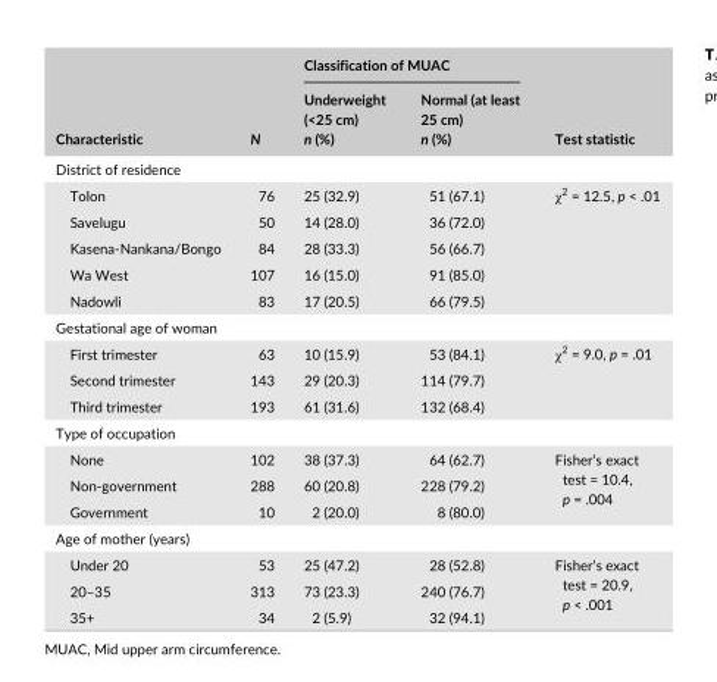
<table><thead><tr><td rowspan="2">Characteristic</td><td rowspan="2">N</td><td colspan="2">Classification of MUAC</td><td rowspan="2">Test statistic</td></tr><tr><td>Underweight (&lt;25 cm) n (%)</td><td>Normal (at least 25 cm) n (%)</td></tr></thead><tbody><tr><td colspan="5">District of residence</td></tr><tr><td>Tolon</td><td>76</td><td>25 (32.9)</td><td>51 (67.1)</td><td rowspan="5">χ<sup>2</sup> = 12.5, p &lt; .01</td></tr><tr><td>Savelugu</td><td>50</td><td>14 (28.0)</td><td>36 (72.0)</td></tr><tr><td>Kasena- Nankana/Bongo</td><td>84</td><td>28 (33.3)</td><td>56 (66.7)</td></tr><tr><td>Wa West</td><td>107</td><td>16 (15.0)</td><td>91 (85.0)</td></tr><tr><td>Nadowli</td><td>83</td><td>17 (20.5)</td><td>66 (79.5)</td></tr><tr><td colspan="5">Gestational age of woman</td></tr><tr><td>First trimester</td><td>63</td><td>10 (15.9)</td><td>53 (84.1)</td><td rowspan="3">χ<sup>2</sup> = 9.0, p = .01</td></tr><tr><td>Second trimester</td><td>143</td><td>29 (20.3)</td><td>114 (79.7)</td></tr><tr><td>Third trimester</td><td>193</td><td>61 (31.6)</td><td>132 (68.4)</td></tr><tr><td colspan="5">Type of occupation</td></tr><tr><td>None</td><td>102</td><td>38 (37.3)</td><td>64 (62.7)</td><td rowspan="3">Fisher’s exact test = 10.4, p = .004</td></tr><tr><td>Non- government</td><td>288</td><td>60 (20.8)</td><td>228 (79.2)</td></tr><tr><td>Government</td><td>10</td><td>2 (20.0)</td><td>8 (80.0)</td></tr><tr><td colspan="5">Age of mother (years)</td></tr><tr><td>Under 20</td><td>53</td><td>25 (47.2)</td><td>28 (52.8)</td><td rowspan="3">Fisher’s exact test = 20.9, p &lt; .001</td></tr><tr><td>20–35</td><td>313</td><td>73 (23.3)</td><td>240 (76.7)</td></tr><tr><td>35+</td><td>34</td><td>2 (5.9)</td><td>32 (94.1)</td></tr></tbody></table>